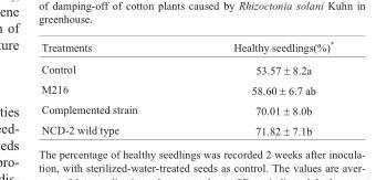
<table><thead><tr><td>Treatments</td><td>Healthy seedlings(%)*</td></tr></thead><tbody><tr><td>Control</td><td>53.57 ± 8.2a</td></tr><tr><td>M216</td><td>58.60 ± 6.7 ab</td></tr><tr><td>Complemented strain</td><td>70.01 ± 8.0b</td></tr><tr><td>NCD-2 wild type</td><td>71.82 ± 7.1b</td></tr></tbody></table>